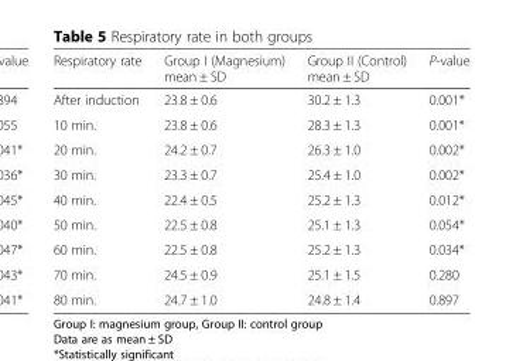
<table><thead><tr><td>Respiratory rate</td><td>Group I (Magnesium) mean ± SD</td><td>Group II (Control) mean ± SD</td><td>P-value</td></tr></thead><tbody><tr><td>After induction</td><td>23.8 ± 0.6</td><td>30.2 ± 1.3</td><td>0.001*</td></tr><tr><td>10 min.</td><td>23.8 ± 0.6</td><td>28.3 ± 1.3</td><td>0.001*</td></tr><tr><td>20 min.</td><td>24.2 ± 0.7</td><td>26.3 ± 1.0</td><td>0.002*</td></tr><tr><td>30 min.</td><td>23.3 ± 0.7</td><td>25.4 ± 1.0</td><td>0.002*</td></tr><tr><td>40 min.</td><td>22.4 ± 0.5</td><td>25.2 ± 1.3</td><td>0.012*</td></tr><tr><td>50 min.</td><td>22.5 ± 0.8</td><td>25.1 ± 1.3</td><td>0.054*</td></tr><tr><td>60 min.</td><td>22.5 ± 0.8</td><td>25.2 ± 1.3</td><td>0.034*</td></tr><tr><td>70 min.</td><td>24.5 ± 0.9</td><td>25.1 ± 1.5</td><td>0.280</td></tr><tr><td>80 min.</td><td>24.7 ± 1.0</td><td>24.8 ± 1.4</td><td>0.897</td></tr></tbody></table>